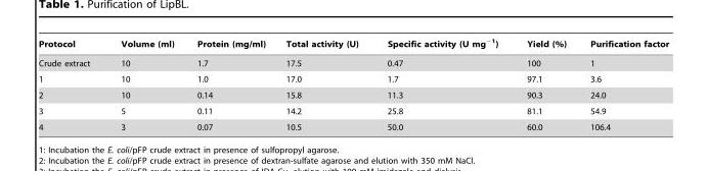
<table><thead><tr><td>Protocol</td><td>Volume (ml)</td><td>Protein (mg/ml)</td><td>Total activity (U)</td><td>Specific activity (U mg<sup>−1</sup>)</td><td>Yield (%)</td><td>Purification factor</td></tr></thead><tbody><tr><td>Crude extract</td><td>10</td><td>1.7</td><td>17.5</td><td>0.47</td><td>100</td><td>1</td></tr><tr><td>1</td><td>10</td><td>1.0</td><td>17.0</td><td>1.7</td><td>97.1</td><td>3.6</td></tr><tr><td>2</td><td>10</td><td>0.14</td><td>15.8</td><td>11.3</td><td>90.3</td><td>24.0</td></tr><tr><td>3</td><td>5</td><td>0.11</td><td>14.2</td><td>25.8</td><td>81.1</td><td>54.9</td></tr><tr><td>4</td><td>3</td><td>0.07</td><td>10.5</td><td>50.0</td><td>60.0</td><td>106.4</td></tr></tbody></table>